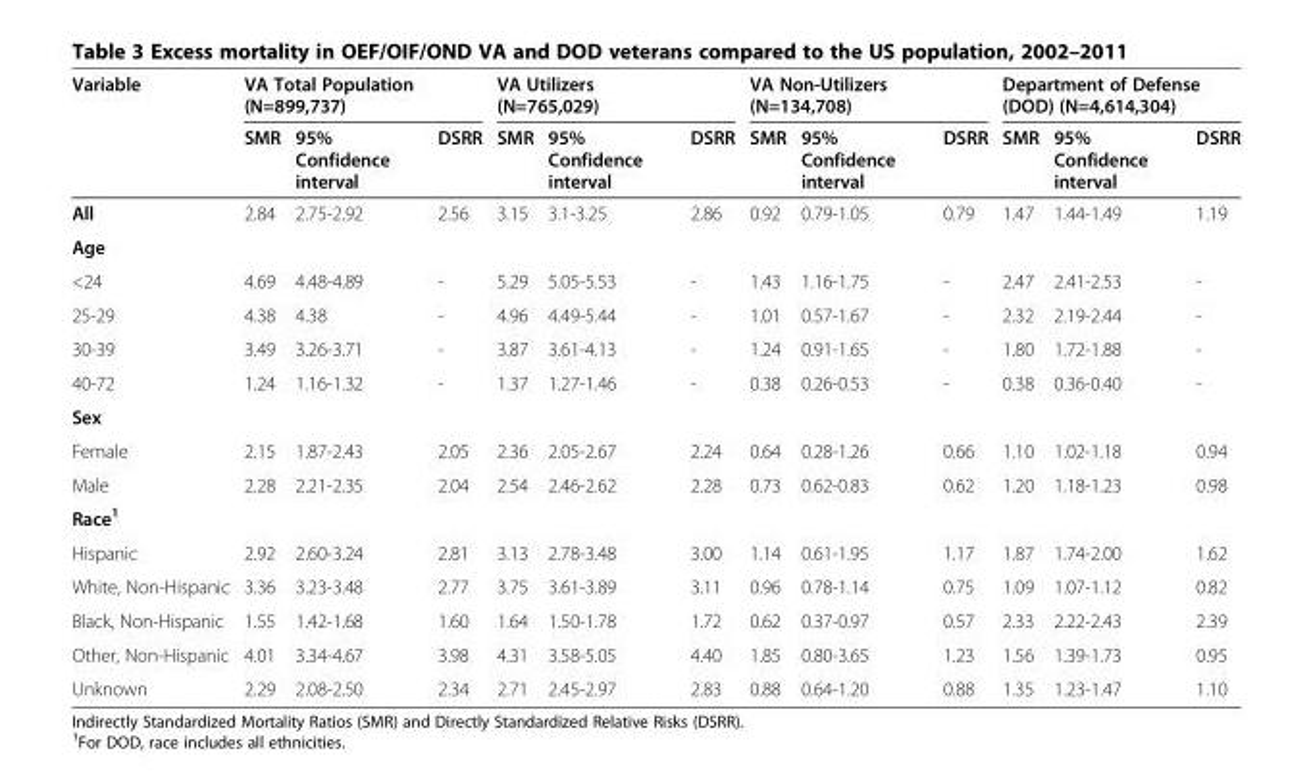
<table><thead><tr><td rowspan="2">Variable</td><td colspan="3">VA Total Population (N=899,737)</td><td colspan="3">VA Utilizers (N=765,029)</td><td colspan="3">VA Non-Utilizers (N=134,708)</td><td colspan="3">Department of Defense (DOD) (N=4,614,304)</td></tr><tr><td>SMR</td><td>95% Confidence interval</td><td>DSRR</td><td>SMR</td><td>95% Confidence interval</td><td>DSRR</td><td>SMR</td><td>95% Confidence interval</td><td>DSRR</td><td>SMR</td><td>95% Confidence interval</td><td>DSRR</td></tr></thead><tbody><tr><td>All</td><td>2.84</td><td>2.75-2.92</td><td>2.56</td><td>3.15</td><td>3.1-3.25</td><td>2.86</td><td>0.92</td><td>0.79-1.05</td><td>0.79</td><td>1.47</td><td>1.44-1.49</td><td>1.19</td></tr><tr><td colspan="13">Age</td></tr><tr><td>&lt;24</td><td>4.69</td><td>4.48-4.89</td><td>-</td><td>5.29</td><td>5.05-5.53</td><td>-</td><td>1.43</td><td>1.16-1.75</td><td>-</td><td>2.47</td><td>2.41-2.53</td><td>-</td></tr><tr><td>25-29</td><td>4.38</td><td>4.38</td><td>-</td><td>4.96</td><td>4.49-5.44</td><td>-</td><td>1.01</td><td>0.57-1.67</td><td>-</td><td>2.32</td><td>2.19-2.44</td><td>-</td></tr><tr><td>30-39</td><td>3.49</td><td>3.26-3.71</td><td>-</td><td>3.87</td><td>3.61-4.13</td><td>-</td><td>1.24</td><td>0.91-1.65</td><td>-</td><td>1.80</td><td>1.72-1.88</td><td>-</td></tr><tr><td>40-72</td><td>1.24</td><td>1.16-1.32</td><td>-</td><td>1.37</td><td>1.27-1.46</td><td>-</td><td>0.38</td><td>0.26-0.53</td><td>-</td><td>0.38</td><td>0.36-0.40</td><td>-</td></tr><tr><td colspan="13">Sex</td></tr><tr><td>Female</td><td>2.15</td><td>1.87-2.43</td><td>2.05</td><td>2.36</td><td>2.05-2.67</td><td>2.24</td><td>0.64</td><td>0.28-1.26</td><td>0.66</td><td>1.10</td><td>1.02-1.18</td><td>0.94</td></tr><tr><td>Male</td><td>2.28</td><td>2.21-2.35</td><td>2.04</td><td>2.54</td><td>2.46-2.62</td><td>2.28</td><td>0.73</td><td>0.62-0.83</td><td>0.62</td><td>1.20</td><td>1.18-1.23</td><td>0.98</td></tr><tr><td colspan="13">Race<sup>1</sup></td></tr><tr><td>Hispanic</td><td>2.92</td><td>2.60-3.24</td><td>2.81</td><td>3.13</td><td>2.78-3.48</td><td>3.00</td><td>1.14</td><td>0.61-1.95</td><td>1.17</td><td>1.87</td><td>1.74-2.00</td><td>1.62</td></tr><tr><td>White, Non-Hispanic</td><td>3.36</td><td>3.23-3.48</td><td>2.77</td><td>3.75</td><td>3.61-3.89</td><td>3.11</td><td>0.96</td><td>0.78-1.14</td><td>0.75</td><td>1.09</td><td>1.07-1.12</td><td>0.82</td></tr><tr><td>Black, Non-Hispanic</td><td>1.55</td><td>1.42-1.68</td><td>1.60</td><td>1.64</td><td>1.50-1.78</td><td>1.72</td><td>0.62</td><td>0.37-0.97</td><td>0.57</td><td>2.33</td><td>2.22-2.43</td><td>2.39</td></tr><tr><td>Other, Non-Hispanic</td><td>4.01</td><td>3.34-4.67</td><td>3.98</td><td>4.31</td><td>3.58-5.05</td><td>4.40</td><td>1.85</td><td>0.80-3.65</td><td>1.23</td><td>1.56</td><td>1.39-1.73</td><td>0.95</td></tr><tr><td>Unknown</td><td>2.29</td><td>2.08-2.50</td><td>2.34</td><td>2.71</td><td>2.45-2.97</td><td>2.83</td><td>0.88</td><td>0.64-1.20</td><td>0.88</td><td>1.35</td><td>1.23-1.47</td><td>1.10</td></tr></tbody></table>